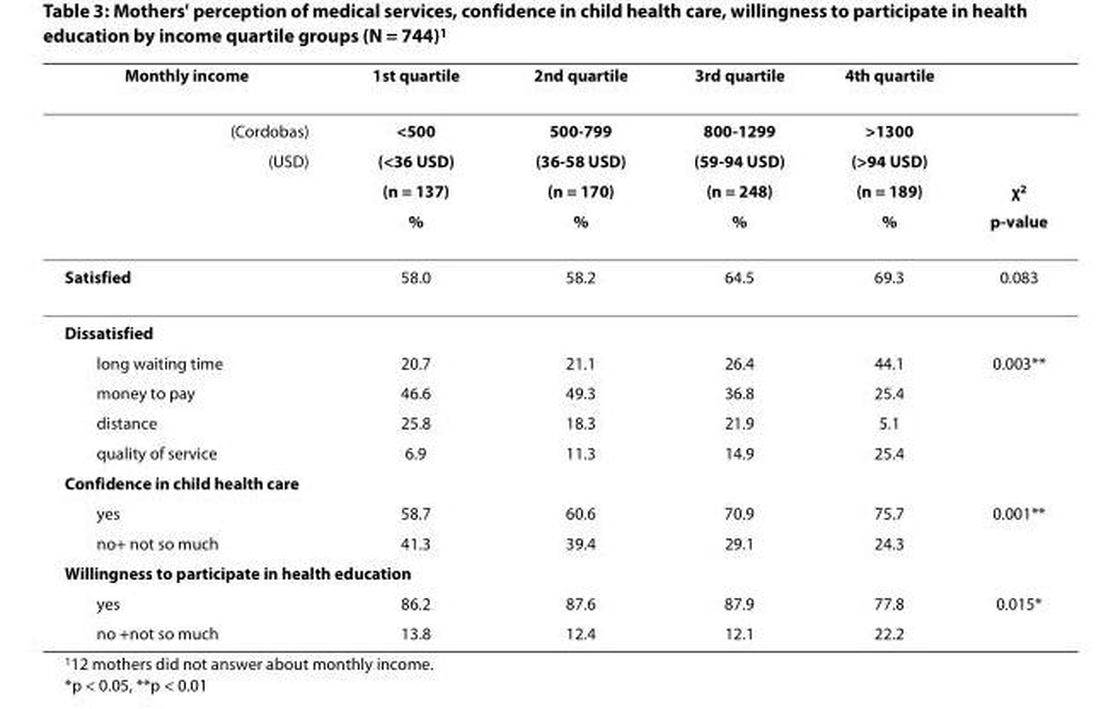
<table><thead><tr><td>Monthly income</td><td>1st quartile</td><td>2nd quartile</td><td>3rd quartile</td><td>4th quartile</td><td></td></tr></thead><tbody><tr><td>(Cordobas)</td><td>&lt;500</td><td>500-799</td><td>800-1299</td><td>&gt;1300</td><td></td></tr><tr><td rowspan="3">(USD)</td><td>(&lt;36 USD)</td><td>(36-58 USD)</td><td>(59-94 USD)</td><td>(&gt;94 USD)</td><td></td></tr><tr><td>(n = 137)</td><td>(n = 170)</td><td>(n = 248)</td><td>(n = 189)</td><td>χ<sup>2</sup></td></tr><tr><td>%</td><td>%</td><td>%</td><td>%</td><td>p-value</td></tr><tr><td>Satisfied</td><td>58.0</td><td>58.2</td><td>64.5</td><td>69.3</td><td>0.083</td></tr><tr><td colspan="6">Dissatisfied</td></tr><tr><td>long waiting time</td><td>20.7</td><td>21.1</td><td>26.4</td><td>44.1</td><td>0.003**</td></tr><tr><td>money to pay</td><td>46.6</td><td>49.3</td><td>36.8</td><td>25.4</td><td></td></tr><tr><td>distance</td><td>25.8</td><td>18.3</td><td>21.9</td><td>5.1</td><td></td></tr><tr><td>quality of service</td><td>6.9</td><td>11.3</td><td>14.9</td><td>25.4</td><td></td></tr><tr><td colspan="6">Confidence in child health care</td></tr><tr><td>yes</td><td>58.7</td><td>60.6</td><td>70.9</td><td>75.7</td><td>0.001**</td></tr><tr><td>no+ not so much</td><td>41.3</td><td>39.4</td><td>29.1</td><td>24.3</td><td></td></tr><tr><td colspan="6">Willingness to participate in health education</td></tr><tr><td>yes</td><td>86.2</td><td>87.6</td><td>87.9</td><td>77.8</td><td>0.015*</td></tr><tr><td>no +not so much</td><td>13.8</td><td>12.4</td><td>12.1</td><td>22.2</td><td></td></tr></tbody></table>